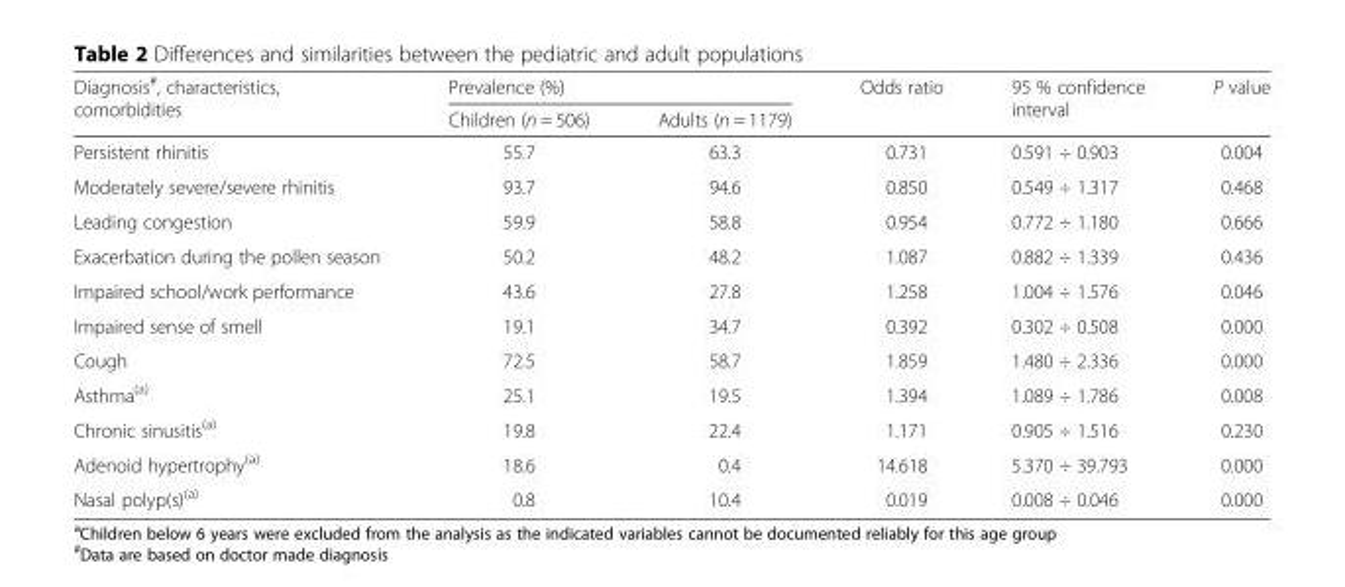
<table><thead><tr><td rowspan="2">Diagnosis<sup>#</sup>, characteristics, comorbidities</td><td colspan="2">Prevalence (%)</td><td rowspan="2">Odds ratio</td><td rowspan="2">95 % confidence interval</td><td rowspan="2">P value</td></tr><tr><td>Children (n = 506)</td><td>Adults (n = 1179)</td></tr></thead><tbody><tr><td>Persistent rhinitis</td><td>55.7</td><td>63.3</td><td>0.731</td><td>0.591 ÷ 0.903</td><td>0.004</td></tr><tr><td>Moderately severe/severe rhinitis</td><td>93.7</td><td>94.6</td><td>0.850</td><td>0.549 ÷ 1.317</td><td>0.468</td></tr><tr><td>Leading congestion</td><td>59.9</td><td>58.8</td><td>0.954</td><td>0.772 ÷ 1.180</td><td>0.666</td></tr><tr><td>Exacerbation during the pollen season</td><td>50.2</td><td>48.2</td><td>1.087</td><td>0.882 ÷ 1.339</td><td>0.436</td></tr><tr><td>Impaired school/work performance</td><td>43.6</td><td>27.8</td><td>1.258</td><td>1.004 ÷ 1.576</td><td>0.046</td></tr><tr><td>Impaired sense of smell</td><td>19.1</td><td>34.7</td><td>0.392</td><td>0.302 ÷ 0.508</td><td>0.000</td></tr><tr><td>Cough</td><td>72.5</td><td>58.7</td><td>1.859</td><td>1.480 ÷ 2.336</td><td>0.000</td></tr><tr><td>Asthma<sup>(a)</sup></td><td>25.1</td><td>19.5</td><td>1.394</td><td>1.089 ÷ 1.786</td><td>0.008</td></tr><tr><td>Chronic sinusitis<sup>(a)</sup></td><td>19.8</td><td>22.4</td><td>1.171</td><td>0.905 ÷ 1.516</td><td>0.230</td></tr><tr><td>Adenoid hypertrophy<sup>(a)</sup></td><td>18.6</td><td>0.4</td><td>14.618</td><td>5.370 ÷ 39.793</td><td>0.000</td></tr><tr><td>Nasal polyp(s)<sup>(a)</sup></td><td>0.8</td><td>10.4</td><td>0.019</td><td>0.008 ÷ 0.046</td><td>0.000</td></tr></tbody></table>